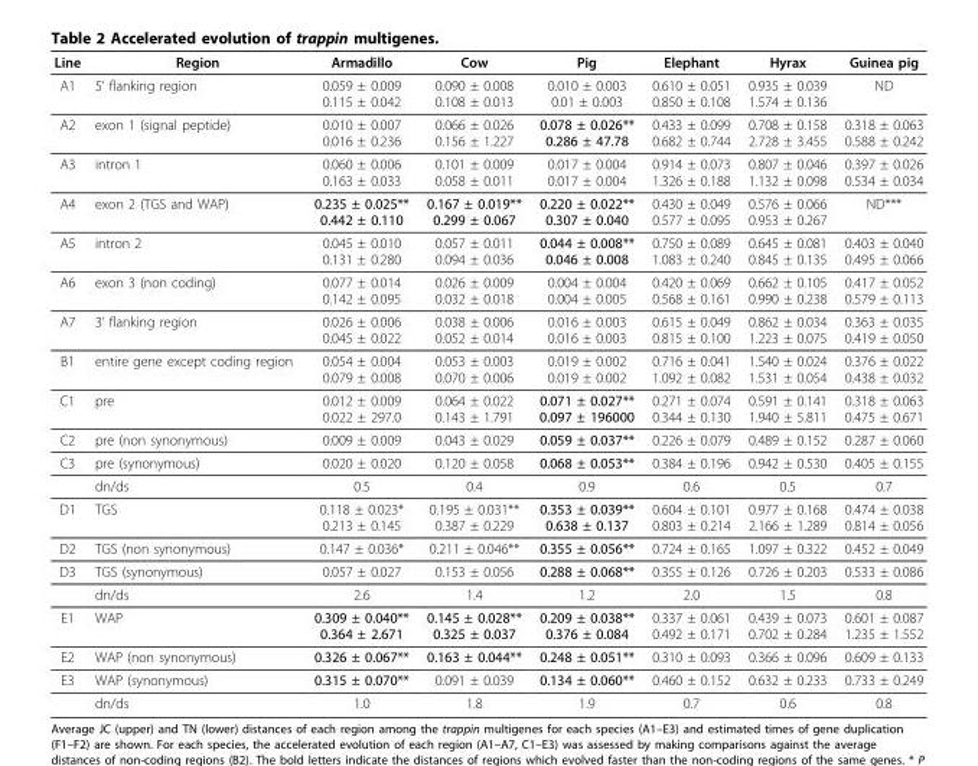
<table><thead><tr><td>Line</td><td>Region</td><td>Armadillo</td><td>Cow</td><td>Pig</td><td>Elephant</td><td>Hyrax</td><td>Guinea pig</td></tr></thead><tbody><tr><td>A1</td><td>5’ flanking region</td><td>0.059 ± 0.009 0.115 ± 0.042</td><td>0.090 ± 0.008 0.108 ± 0.013</td><td>0.010 ± 0.003 0.01 ± 0.003</td><td>0.610 ± 0.051 0.850 ± 0.108</td><td>0.935 ± 0.039 1.574 ± 0.136</td><td>ND</td></tr><tr><td>A2</td><td>exon 1 (signal peptide)</td><td>0.010 ± 0.007 0.016 ± 0.236</td><td>0.066 ± 0.026 0.156 ± 1.227</td><td>0.078 ± 0.026** 0.286 ± 47.78</td><td>0.433 ± 0.099 0.682 ± 0.744</td><td>0.708 ± 0.158 2.728 ± 3.455</td><td>0.318 ± 0.063 0.588 ± 0.242</td></tr><tr><td>A3</td><td>intron 1</td><td>0.060 ± 0.006 0.163 ± 0.033</td><td>0.101 ± 0.009 0.058 ± 0.011</td><td>0.017 ± 0.004 0.017 ± 0.004</td><td>0.914 ± 0.073 1.326 ± 0.188</td><td>0.807 ± 0.046 1.132 ± 0.098</td><td>0.397 ± 0.026 0.534 ± 0.034</td></tr><tr><td>A4</td><td>exon 2 (TGS and WAP)</td><td>0.235 ± 0.025** 0.442 ± 0.110</td><td>0.167 ± 0.019** 0.299 ± 0.067</td><td>0.220 ± 0.022** 0.307 ± 0.040</td><td>0.430 ± 0.049 0.577 ± 0.095</td><td>0.576 ± 0.066 0.953 ± 0.267</td><td>ND***</td></tr><tr><td>A5</td><td>intron 2</td><td>0.045 ± 0.010 0.131 ± 0.280</td><td>0.057 ± 0.011 0.094 ± 0.036</td><td>0.044 ± 0.008** 0.046 ± 0.008</td><td>0.750 ± 0.089 1.083 ± 0.240</td><td>0.645 ± 0.081 0.845 ± 0.135</td><td>0.403 ± 0.040 0.495 ± 0.066</td></tr><tr><td>A6</td><td>exon 3 (non coding)</td><td>0.077 ± 0.014 0.142 ± 0.095</td><td>0.026 ± 0.009 0.032 ± 0.018</td><td>0.004 ± 0.004 0.004 ± 0.005</td><td>0.420 ± 0.069 0.568 ± 0.161</td><td>0.662 ± 0.105 0.990 ± 0.238</td><td>0.417 ± 0.052 0.579 ± 0.113</td></tr><tr><td>A7</td><td>3’ flanking region</td><td>0.026 ± 0.006 0.045 ± 0.022</td><td>0.038 ± 0.006 0.052 ± 0.014</td><td>0.016 ± 0.003 0.016 ± 0.003</td><td>0.615 ± 0.049 0.815 ± 0.100</td><td>0.862 ± 0.034 1.223 ± 0.075</td><td>0.363 ± 0.035 0.419 ± 0.050</td></tr><tr><td>B1</td><td>entire gene except coding region</td><td>0.054 ± 0.004 0.079 ± 0.008</td><td>0.053 ± 0.003 0.070 ± 0.006</td><td>0.019 ± 0.002 0.019 ± 0.002</td><td>0.716 ± 0.041 1.092 ± 0.082</td><td>1.540 ± 0.024 1.531 ± 0.054</td><td>0.376 ± 0.022 0.438 ± 0.032</td></tr><tr><td>C1</td><td>pre</td><td>0.012 ± 0.009 0.022 ± 297.0</td><td>0.064 ± 0.022 0.143 ± 1.791</td><td>0.071 ± 0.027** 0.097 ± 196000</td><td>0.271 ± 0.074 0.344 ± 0.130</td><td>0.591 ± 0.141 1.940 ± 5.811</td><td>0.318 ± 0.063 0.475 ± 0.671</td></tr><tr><td>C2</td><td>pre (non synonymous)</td><td>0.009 ± 0.009</td><td>0.043 ± 0.029</td><td>0.059 ± 0.037**</td><td>0.226 ± 0.079</td><td>0.489 ± 0.152</td><td>0.287 ± 0.060</td></tr><tr><td rowspan="2">C3</td><td>pre (synonymous)</td><td>0.020 ± 0.020</td><td>0.120 ± 0.058</td><td>0.068 ± 0.053**</td><td>0.384 ± 0.196</td><td>0.942 ± 0.530</td><td>0.405 ± 0.155</td></tr><tr><td>dn/ds</td><td>0.5</td><td>0.4</td><td>0.9</td><td>0.6</td><td>0.5</td><td>0.7</td></tr><tr><td>D1</td><td>TGS</td><td>0.118 ± 0.023* 0.213 ± 0.145</td><td>0.195 ± 0.031** 0.387 ± 0.229</td><td>0.353 ± 0.039** 0.638 ± 0.137</td><td>0.604 ± 0.101 0.803 ± 0.214</td><td>0.977 ± 0.168 2.166 ± 1.289</td><td>0.474 ± 0.038 0.814 ± 0.056</td></tr><tr><td>D2</td><td>TGS (non synonymous)</td><td>0.147 ± 0.036*</td><td>0.211 ± 0.046**</td><td>0.355 ± 0.056**</td><td>0.724 ± 0.165</td><td>1.097 ± 0.322</td><td>0.452 ± 0.049</td></tr><tr><td rowspan="2">D3</td><td>TGS (synonymous)</td><td>0.057 ± 0.027</td><td>0.153 ± 0.056</td><td>0.288 ± 0.068**</td><td>0.355 ± 0.126</td><td>0.726 ± 0.203</td><td>0.533 ± 0.086</td></tr><tr><td>dn/ds</td><td>2.6</td><td>1.4</td><td>1.2</td><td>2.0</td><td>1.5</td><td>0.8</td></tr><tr><td>E1</td><td>WAP</td><td>0.309 ± 0.040** 0.364 ± 2.671</td><td>0.145 ± 0.028** 0.325 ± 0.037</td><td>0.209 ± 0.038** 0.376 ± 0.084</td><td>0.337 ± 0.061 0.492 ± 0.171</td><td>0.439 ± 0.073 0.702 ± 0.284</td><td>0.601 ± 0.087 1.235 ± 1.552</td></tr><tr><td>E2</td><td>WAP (non synonymous)</td><td>0.326 ± 0.067**</td><td>0.163 ± 0.044**</td><td>0.248 ± 0.051**</td><td>0.310 ± 0.093</td><td>0.366 ± 0.096</td><td>0.609 ± 0.133</td></tr><tr><td rowspan="2">E3</td><td>WAP (synonymous)</td><td>0.315 ± 0.070**</td><td>0.091 ± 0.039</td><td>0.134 ± 0.060**</td><td>0.460 ± 0.152</td><td>0.632 ± 0.233</td><td>0.733 ± 0.249</td></tr><tr><td>dn/ds</td><td>1.0</td><td>1.8</td><td>1.9</td><td>0.7</td><td>0.6</td><td>0.8</td></tr></tbody></table>